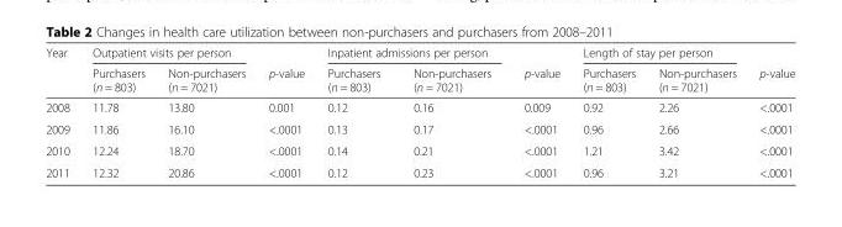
<table><thead><tr><td rowspan="2">Year</td><td colspan="2">Outpatient visits per person</td><td rowspan="2">p-value</td><td colspan="2">Inpatient admissions per person</td><td rowspan="2">p-value</td><td colspan="2">Length of stay per person</td><td rowspan="2">p-value</td></tr><tr><td>Purchasers (n = 803)</td><td>Non-purchasers (n = 7021)</td><td>Purchasers (n = 803)</td><td>Non-purchasers (n = 7021)</td><td>Purchasers (n = 803)</td><td>Non-purchasers (n = 7021)</td></tr></thead><tbody><tr><td>2008</td><td>11.78</td><td>13.80</td><td>0.001</td><td>0.12</td><td>0.16</td><td>0.009</td><td>0.92</td><td>2.26</td><td>&lt;.0001</td></tr><tr><td>2009</td><td>11.86</td><td>16.10</td><td>&lt;.0001</td><td>0.13</td><td>0.17</td><td>&lt;.0001</td><td>0.96</td><td>2.66</td><td>&lt;.0001</td></tr><tr><td>2010</td><td>12.24</td><td>18.70</td><td>&lt;.0001</td><td>0.14</td><td>0.21</td><td>&lt;.0001</td><td>1.21</td><td>3.42</td><td>&lt;.0001</td></tr><tr><td>2011</td><td>12.32</td><td>20.86</td><td>&lt;.0001</td><td>0.12</td><td>0.23</td><td>&lt;.0001</td><td>0.96</td><td>3.21</td><td>&lt;.0001</td></tr></tbody></table>